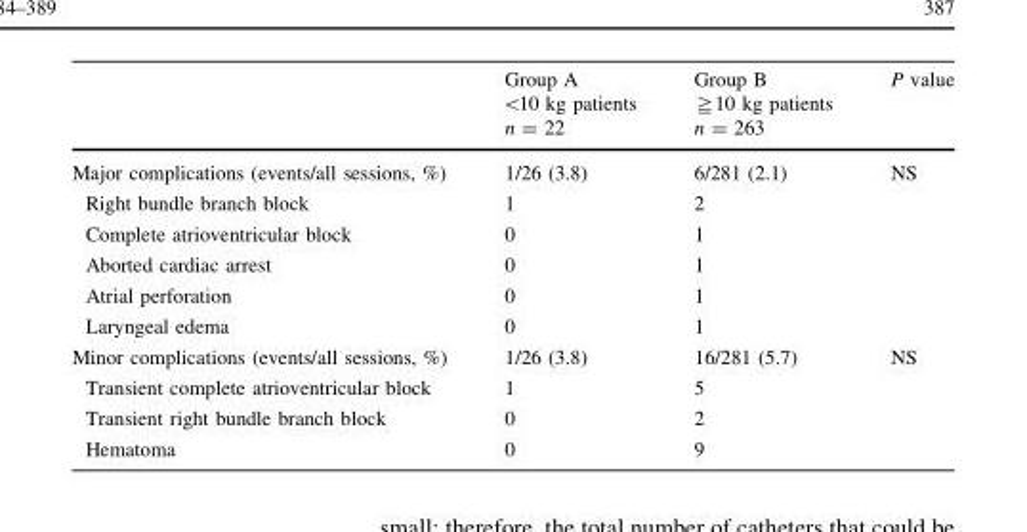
<table><thead><tr><td rowspan="3"></td><td rowspan="3">Group A &lt;10 kg patients n = 22</td><td rowspan="3">Group B ≧10 kg patients n = 263</td><td rowspan="3">P value</td></tr><tr></tr><tr></tr></thead><tbody><tr><td>Major complications (events/all sessions, %)</td><td>1/26 (3.8)</td><td>6/281 (2.1)</td><td>NS</td></tr><tr><td>Right bundle branch block</td><td>1</td><td>2</td><td></td></tr><tr><td>Complete atrioventricular block</td><td>0</td><td>1</td><td></td></tr><tr><td>Aborted cardiac arrest</td><td>0</td><td>1</td><td></td></tr><tr><td>Atrial perforation</td><td>0</td><td>1</td><td></td></tr><tr><td>Laryngeal edema</td><td>0</td><td>1</td><td></td></tr><tr><td>Minor complications (events/all sessions, %)</td><td>1/26 (3.8)</td><td>16/281 (5.7)</td><td>NS</td></tr><tr><td>Transient complete atrioventricular block</td><td>1</td><td>5</td><td></td></tr><tr><td>Transient right bundle branch block</td><td>0</td><td>2</td><td></td></tr><tr><td>Hematoma</td><td>0</td><td>9</td><td></td></tr></tbody></table>